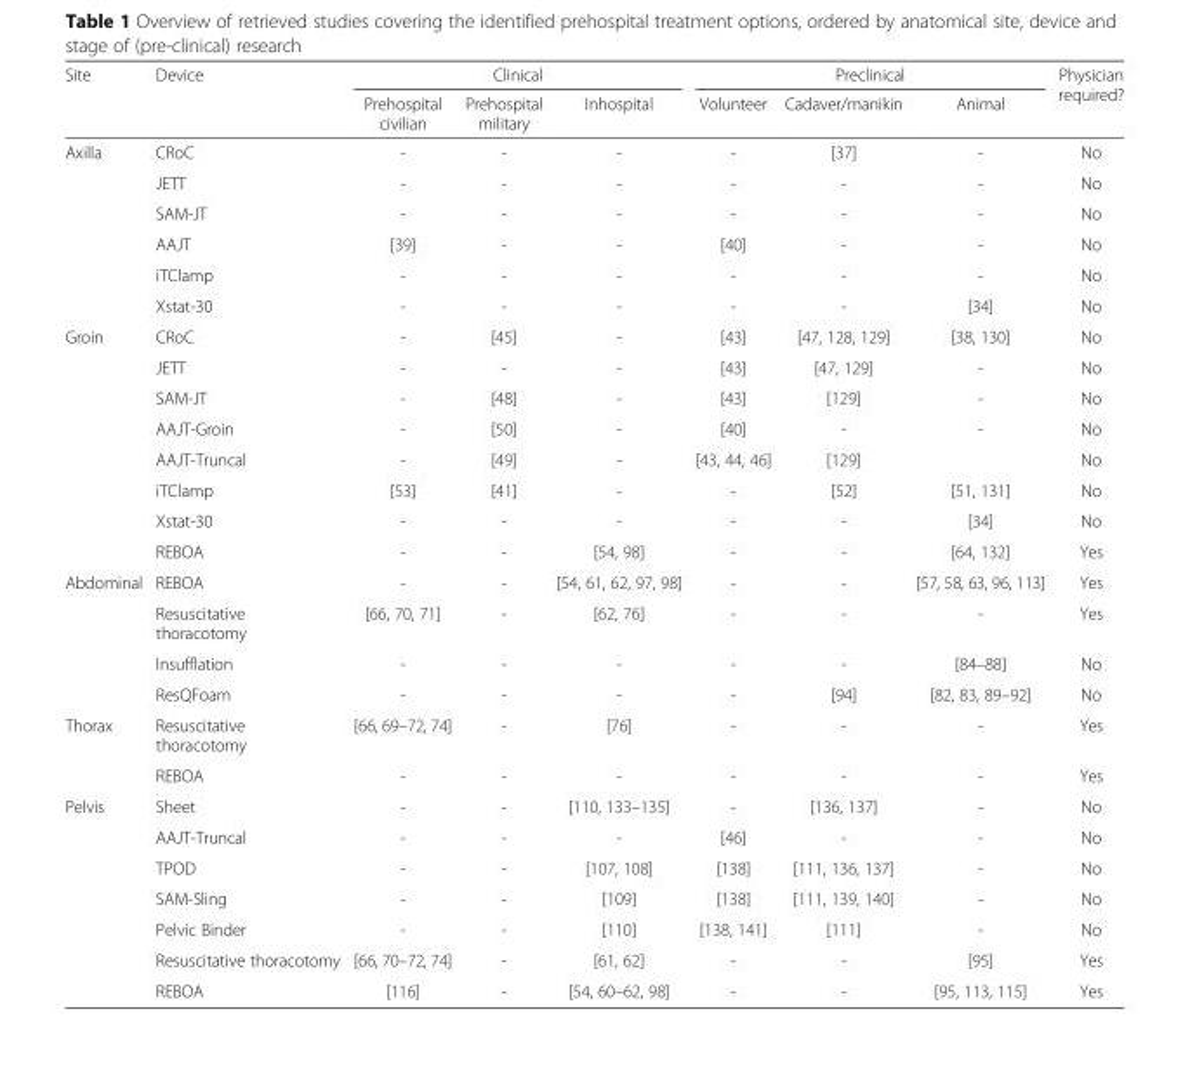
<table><thead><tr><td rowspan="2">Site</td><td rowspan="2">Device</td><td colspan="3">Clinical</td><td colspan="3">Preclinical</td><td rowspan="2">Physician required?</td></tr><tr><td>Prehospital civilian</td><td>Prehospital military</td><td>Inhospital</td><td>Volunteer</td><td>Cadaver/manikin</td><td>Animal</td></tr></thead><tbody><tr><td rowspan="6">Axilla</td><td>CRoC</td><td>-</td><td>-</td><td>-</td><td>-</td><td>[37]</td><td>-</td><td>No</td></tr><tr><td>JETT</td><td>-</td><td>-</td><td>-</td><td>-</td><td>-</td><td>-</td><td>No</td></tr><tr><td>SAM-JT</td><td>-</td><td>-</td><td>-</td><td>-</td><td>-</td><td>-</td><td>No</td></tr><tr><td>AAJT</td><td>[39]</td><td>-</td><td>-</td><td>[40]</td><td>-</td><td>-</td><td>No</td></tr><tr><td>iTClamp</td><td>-</td><td>-</td><td>-</td><td>-</td><td>-</td><td>-</td><td>No</td></tr><tr><td>Xstat-30</td><td>-</td><td>-</td><td>-</td><td>-</td><td>-</td><td>[34]</td><td>No</td></tr><tr><td rowspan="8">Groin</td><td>CRoC</td><td>-</td><td>[45]</td><td>-</td><td>[43]</td><td>[47, 128, 129]</td><td>[38, 130]</td><td>No</td></tr><tr><td>JETT</td><td>-</td><td>-</td><td>-</td><td>[43]</td><td>[47, 129]</td><td>-</td><td>No</td></tr><tr><td>SAM-JT</td><td>-</td><td>[48]</td><td>-</td><td>[43]</td><td>[129]</td><td>-</td><td>No</td></tr><tr><td>AAJT-Groin</td><td>-</td><td>[50]</td><td>-</td><td>[40]</td><td>-</td><td>-</td><td>No</td></tr><tr><td>AAJT-Truncal</td><td>-</td><td>[49]</td><td>-</td><td>[43, 44, 46]</td><td>[129]</td><td></td><td>No</td></tr><tr><td>iTClamp</td><td>[53]</td><td>[41]</td><td>-</td><td>-</td><td>[52]</td><td>[51, 131]</td><td>No</td></tr><tr><td>Xstat-30</td><td>-</td><td>-</td><td>-</td><td>-</td><td>-</td><td>[34]</td><td>No</td></tr><tr><td>REBOA</td><td>-</td><td>-</td><td>[54, 98]</td><td>-</td><td>-</td><td>[64, 132]</td><td>Yes</td></tr><tr><td rowspan="4">Abdominal</td><td>REBOA</td><td>-</td><td>-</td><td>[54, 61, 62, 97, 98]</td><td>-</td><td>-</td><td>[57, 58, 63, 96, 113]</td><td>Yes</td></tr><tr><td>Resuscitative thoracotomy</td><td>[66, 70, 71]</td><td>-</td><td>[62, 76]</td><td>-</td><td>-</td><td>-</td><td>Yes</td></tr><tr><td>Insufflation</td><td>-</td><td>-</td><td>-</td><td>-</td><td>-</td><td>[84–88]</td><td>No</td></tr><tr><td>ResQFoam</td><td>-</td><td>-</td><td>-</td><td>-</td><td>[94]</td><td>[82, 83, 89–92]</td><td>No</td></tr><tr><td rowspan="2">Thorax</td><td>Resuscitative thoracotomy</td><td>[66, 69–72, 74]</td><td>-</td><td>[76]</td><td>-</td><td>-</td><td>-</td><td>Yes</td></tr><tr><td>REBOA</td><td>-</td><td>-</td><td>-</td><td>-</td><td>-</td><td>-</td><td>Yes</td></tr><tr><td rowspan="7">Pelvis</td><td>Sheet</td><td>-</td><td>-</td><td>[110, 133–135]</td><td>-</td><td>[136, 137]</td><td>-</td><td>No</td></tr><tr><td>AAJT-Truncal</td><td>-</td><td>-</td><td>-</td><td>[46]</td><td>-</td><td>-</td><td>No</td></tr><tr><td>TPOD</td><td>-</td><td>-</td><td>[107, 108]</td><td>[138]</td><td>[111, 136, 137]</td><td>-</td><td>No</td></tr><tr><td>SAM-Sling</td><td>-</td><td>-</td><td>[109]</td><td>[138]</td><td>[111, 139, 140]</td><td>-</td><td>No</td></tr><tr><td>Pelvic Binder</td><td>-</td><td>-</td><td>[110]</td><td>[138, 141]</td><td>[111]</td><td>-</td><td>No</td></tr><tr><td>Resuscitative thoracotomy</td><td>[66, 70–72, 74]</td><td>-</td><td>[61, 62]</td><td>-</td><td>-</td><td>[95]</td><td>Yes</td></tr><tr><td>REBOA</td><td>[116]</td><td>-</td><td>[54, 60–62, 98]</td><td>-</td><td>-</td><td>[95, 113, 115]</td><td>Yes</td></tr></tbody></table>